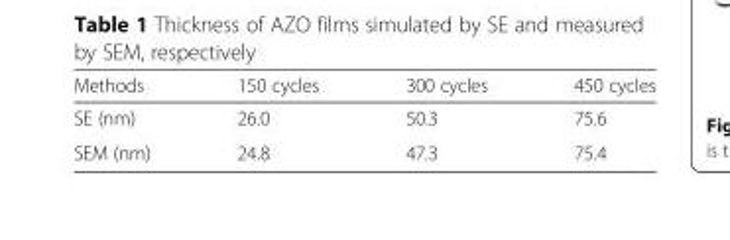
<table><thead><tr><td>Methods</td><td>150 cycles</td><td>300 cycles</td><td>450 cycles</td></tr></thead><tbody><tr><td>SE (nm)</td><td>26.0</td><td>50.3</td><td>75.6</td></tr><tr><td>SEM (nm)</td><td>24.8</td><td>47.3</td><td>75.4</td></tr></tbody></table>